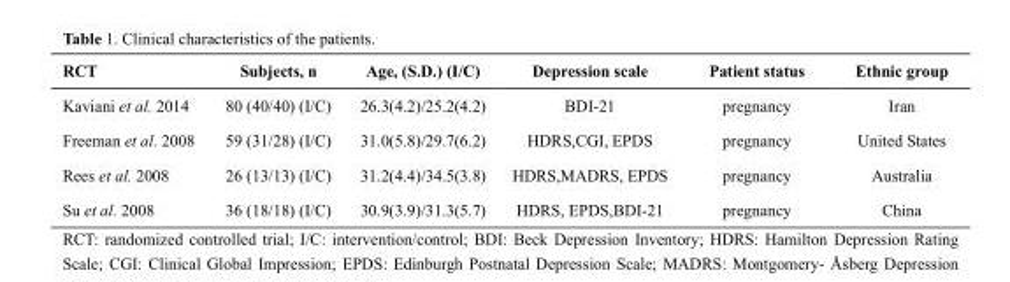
<table><thead><tr><td>RCT</td><td>Subjects, n</td><td>Age, (S.D.) (I/C)</td><td>Depression scale</td><td>Patient status</td><td>Ethnic group</td></tr></thead><tbody><tr><td>Kaviani et al. 2014</td><td>80 (40/40) (I/C)</td><td>26.3(4.2)/25.2(4.2)</td><td>BDI-21</td><td>pregnancy</td><td>Iran</td></tr><tr><td>Freeman et al. 2008</td><td>59 (31/28) (I/C)</td><td>31.0(5.8)/29.7(6.2)</td><td>HDRS,CGI, EPDS</td><td>pregnancy</td><td>United States</td></tr><tr><td>Rees et al. 2008</td><td>26 (13/13) (I/C)</td><td>31.2(4.4)/34.5(3.8)</td><td>HDRS,MADRS, EPDS</td><td>pregnancy</td><td>Australia</td></tr><tr><td>Su et al. 2008</td><td>36 (18/18) (I/C)</td><td>30.9(3.9)/31.3(5.7)</td><td>HDRS, EPDS,BDI-21</td><td>pregnancy</td><td>China</td></tr></tbody></table>